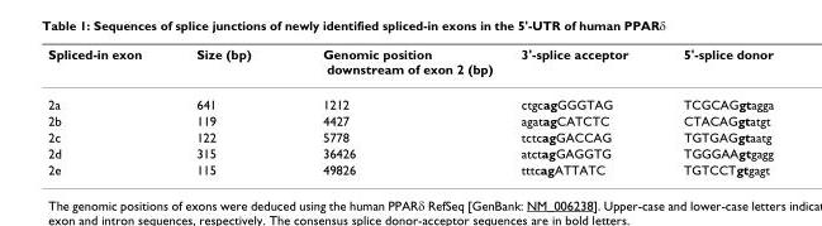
<table><thead><tr><td>Spliced-in exon</td><td>Size (bp)</td><td>Genomic position downstream of exon 2 (bp)</td><td>3&#x27;-splice acceptor</td><td>5&#x27;-splice donor</td></tr></thead><tbody><tr><td>2a</td><td>641</td><td>1212</td><td>ctgcagGGGTAG</td><td>TCGCAGgtagga</td></tr><tr><td>2b</td><td>119</td><td>4427</td><td>agatagCATCTC</td><td>CTACAGgtatgt</td></tr><tr><td>2c</td><td>122</td><td>5778</td><td>tctcagGACCAG</td><td>TGTGAGgtaatg</td></tr><tr><td>2d</td><td>315</td><td>36426</td><td>atctagGAGGTG</td><td>TGGGAAgtgagg</td></tr><tr><td>2e</td><td>115</td><td>49826</td><td>tttcagATTATC</td><td>TGTCCTgtgagt</td></tr></tbody></table>